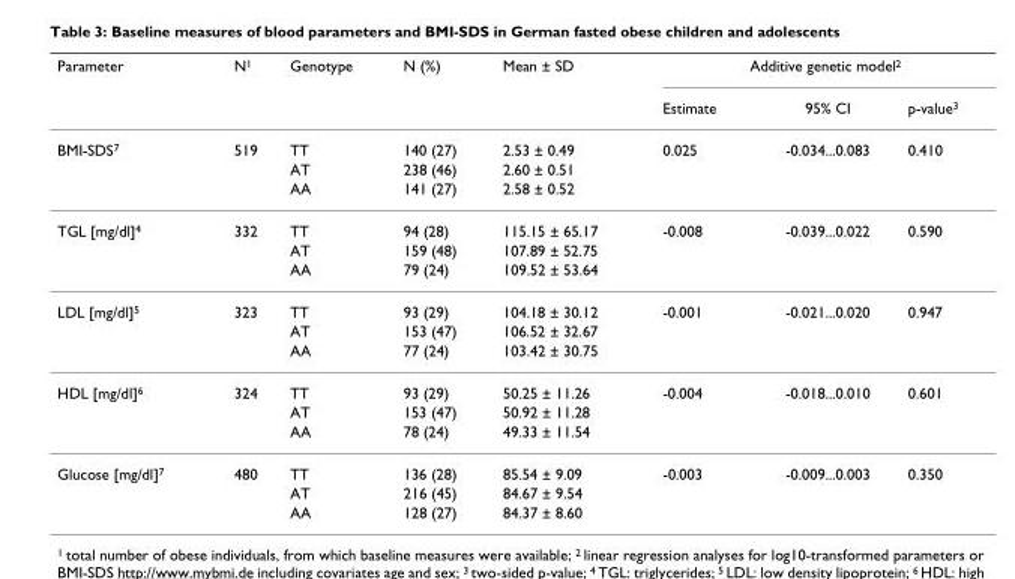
<table><thead><tr><td rowspan="2">Parameter</td><td rowspan="2">N<sup>1</sup></td><td rowspan="2">Genotype</td><td rowspan="2">N (%)</td><td rowspan="2">Mean ± SD</td><td colspan="3">Additive genetic model<sup>2</sup></td></tr><tr><td>Estimate</td><td>95% CI</td><td>p-value<sup>3</sup></td></tr></thead><tbody><tr><td rowspan="3">BMI-SDS<sup>7</sup></td><td>519</td><td>TT</td><td>140 (27)</td><td>2.53 ± 0.49</td><td>0.025</td><td>-0.034...0.083</td><td>0.410</td></tr><tr><td></td><td>AT</td><td>238 (46)</td><td>2.60 ± 0.51</td><td></td><td></td><td></td></tr><tr><td></td><td>AA</td><td>141 (27)</td><td>2.58 ± 0.52</td><td></td><td></td><td></td></tr><tr><td rowspan="3">TGL [mg/dl]<sup>4</sup></td><td>332</td><td>TT</td><td>94 (28)</td><td>115.15 ± 65.17</td><td>-0.008</td><td>-0.039...0.022</td><td>0.590</td></tr><tr><td></td><td>AT</td><td>159 (48)</td><td>107.89 ± 52.75</td><td></td><td></td><td></td></tr><tr><td></td><td>AA</td><td>79 (24)</td><td>109.52 ± 53.64</td><td></td><td></td><td></td></tr><tr><td rowspan="3">LDL [mg/dl]<sup>5</sup></td><td>323</td><td>TT</td><td>93 (29)</td><td>104.18 ± 30.12</td><td>-0.001</td><td>-0.021...0.020</td><td>0.947</td></tr><tr><td></td><td>AT</td><td>153 (47)</td><td>106.52 ± 32.67</td><td></td><td></td><td></td></tr><tr><td></td><td>AA</td><td>77 (24)</td><td>103.42 ± 30.75</td><td></td><td></td><td></td></tr><tr><td rowspan="3">HDL [mg/dl]<sup>6</sup></td><td>324</td><td>TT</td><td>93 (29)</td><td>50.25 ± 11.26</td><td>-0.004</td><td>-0.018...0.010</td><td>0.601</td></tr><tr><td></td><td>AT</td><td>153 (47)</td><td>50.92 ± 11.28</td><td></td><td></td><td></td></tr><tr><td></td><td>AA</td><td>78 (24)</td><td>49.33 ± 11.54</td><td></td><td></td><td></td></tr><tr><td rowspan="3">Glucose [mg/dl]<sup>7</sup></td><td>480</td><td>TT</td><td>136 (28)</td><td>85.54 ± 9.09</td><td>-0.003</td><td>-0.009...0.003</td><td>0.350</td></tr><tr><td></td><td>AT</td><td>216 (45)</td><td>84.67 ± 9.54</td><td></td><td></td><td></td></tr><tr><td></td><td>AA</td><td>128 (27)</td><td>84.37 ± 8.60</td><td></td><td></td><td></td></tr></tbody></table>